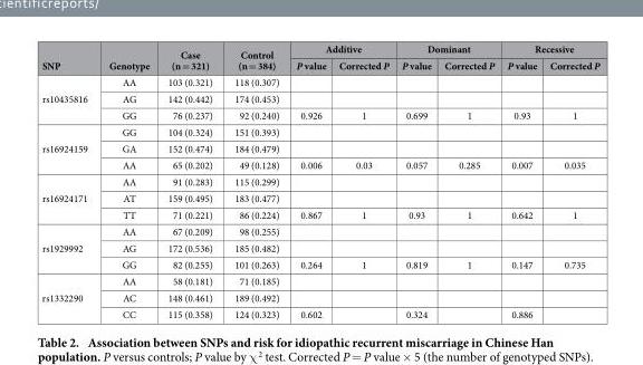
<table><thead><tr><td rowspan="2">SNP</td><td rowspan="2">Genotype</td><td rowspan="2">Case (n = 321)</td><td rowspan="2">Control (n = 384)</td><td colspan="2">Additive</td><td colspan="2">Dominant</td><td colspan="2">Recessive</td></tr><tr><td>P value</td><td>Corrected P</td><td>P value</td><td>Corrected P</td><td>P value</td><td>Corrected P</td></tr></thead><tbody><tr><td rowspan="3">rs10435816</td><td>AA</td><td>103 (0.321)</td><td>118 (0.307)</td><td></td><td></td><td></td><td></td><td></td><td></td></tr><tr><td>AG</td><td>142 (0.442)</td><td>174 (0.453)</td><td></td><td></td><td></td><td></td><td></td><td></td></tr><tr><td>GG</td><td>76 (0.237)</td><td>92 (0.240)</td><td>0.926</td><td>1</td><td>0.699</td><td>1</td><td>0.93</td><td>1</td></tr><tr><td rowspan="3">rs16924159</td><td>GG</td><td>104 (0.324)</td><td>151 (0.393)</td><td></td><td></td><td></td><td></td><td></td><td></td></tr><tr><td>GA</td><td>152 (0.474)</td><td>184 (0.479)</td><td></td><td></td><td></td><td></td><td></td><td></td></tr><tr><td>AA</td><td>65 (0.202)</td><td>49 (0.128)</td><td>0.006</td><td>0.03</td><td>0.057</td><td>0.285</td><td>0.007</td><td>0.035</td></tr><tr><td rowspan="3">rs16924171</td><td>AA</td><td>91 (0.283)</td><td>115 (0.299)</td><td></td><td></td><td></td><td></td><td></td><td></td></tr><tr><td>AT</td><td>159 (0.495)</td><td>183 (0.477)</td><td></td><td></td><td></td><td></td><td></td><td></td></tr><tr><td>TT</td><td>71 (0.221)</td><td>86 (0.224)</td><td>0.867</td><td>1</td><td>0.93</td><td>1</td><td>0.642</td><td>1</td></tr><tr><td rowspan="3">rs1929992</td><td>AA</td><td>67 (0.209)</td><td>98 (0.255)</td><td></td><td></td><td></td><td></td><td></td><td></td></tr><tr><td>AG</td><td>172 (0.536)</td><td>185 (0.482)</td><td></td><td></td><td></td><td></td><td></td><td></td></tr><tr><td>GG</td><td>82 (0.255)</td><td>101 (0.263)</td><td>0.264</td><td>1</td><td>0.819</td><td>1</td><td>0.147</td><td>0.735</td></tr><tr><td rowspan="3">rs1332290</td><td>AA</td><td>58 (0.181)</td><td>71 (0.185)</td><td></td><td></td><td></td><td></td><td></td><td></td></tr><tr><td>AC</td><td>148 (0.461)</td><td>189 (0.492)</td><td></td><td></td><td></td><td></td><td></td><td></td></tr><tr><td>CC</td><td>115 (0.358)</td><td>124 (0.323)</td><td>0.602</td><td></td><td>0.324</td><td></td><td>0.886</td><td></td></tr></tbody></table>